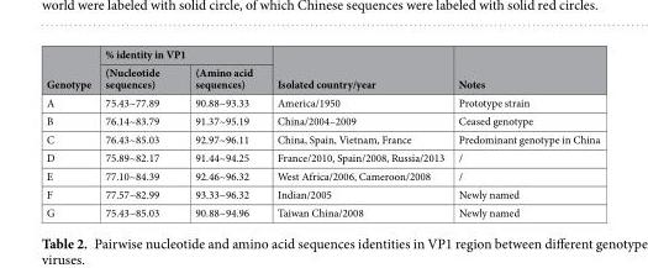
<table><thead><tr><td rowspan="2">Genotype</td><td colspan="2">% identity in VP1</td><td rowspan="2">Isolated country/year</td><td rowspan="2">Notes</td></tr><tr><td>(Nucleotide sequences)</td><td>(Amino acid sequences)</td></tr></thead><tbody><tr><td>A</td><td>75.43~77.89</td><td>90.88~93.33</td><td>America/1950</td><td>Prototype strain</td></tr><tr><td>B</td><td>76.14~83.79</td><td>91.37~95.19</td><td>China/2004–2009</td><td>Ceased genotype</td></tr><tr><td>C</td><td>76.43~85.03</td><td>92.97~96.11</td><td>China, Spain, Vietnam, France</td><td>Predominant genotype in China</td></tr><tr><td>D</td><td>75.89~82.17</td><td>91.44~94.25</td><td>France/2010, Spain/2008, Russia/2013</td><td>/</td></tr><tr><td>E</td><td>77.10~84.39</td><td>92.46~96.32</td><td>West Africa/2006, Cameroon/2008</td><td>/</td></tr><tr><td>F</td><td>77.57~82.99</td><td>93.33~96.32</td><td>Indian/2005</td><td>Newly named</td></tr><tr><td>G</td><td>75.43~85.03</td><td>90.88~94.96</td><td>Taiwan China/2008</td><td>Newly named</td></tr></tbody></table>